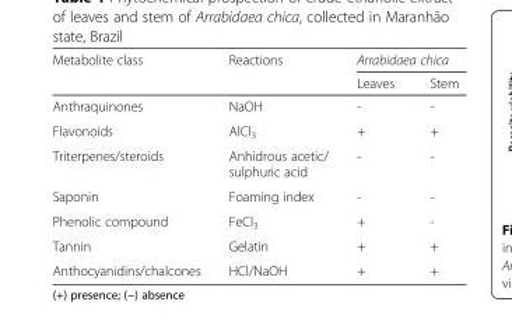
<table><thead><tr><td rowspan="2">Metabolite class</td><td rowspan="2">Reactions</td><td colspan="2">Arrabidaea chica</td></tr><tr><td>Leaves</td><td>Stem</td></tr></thead><tbody><tr><td>Anthraquinones</td><td>NaOH</td><td>-</td><td>-</td></tr><tr><td>Flavonoids</td><td>AlCl<sub>3</sub></td><td>+</td><td>+</td></tr><tr><td>Triterpenes/steroids</td><td>Anhidrous acetic/ sulphuric acid</td><td>-</td><td>-</td></tr><tr><td>Saponin</td><td>Foaming index</td><td>-</td><td>-</td></tr><tr><td>Phenolic compound</td><td>FeCl<sub>3</sub></td><td>+</td><td>-</td></tr><tr><td>Tannin</td><td>Gelatin</td><td>+</td><td>+</td></tr><tr><td>Anthocyanidins/chalcones</td><td>HCl/NaOH</td><td>+</td><td>+</td></tr></tbody></table>